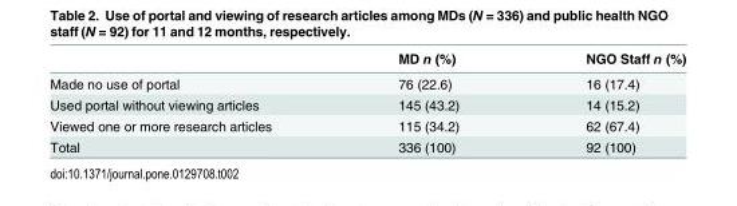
<table><thead><tr><td></td><td>MD n (%)</td><td>NGO Staff n (%)</td></tr></thead><tbody><tr><td>Made no use of portal</td><td>76 (22.6)</td><td>16 (17.4)</td></tr><tr><td>Used portal without viewing articles</td><td>145 (43.2)</td><td>14 (15.2)</td></tr><tr><td>Viewed one or more research articles</td><td>115 (34.2)</td><td>62 (67.4)</td></tr><tr><td>Total</td><td>336 (100)</td><td>92 (100)</td></tr></tbody></table>